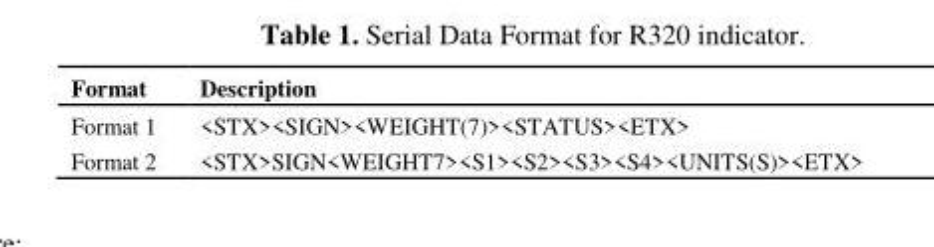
<table><thead><tr><td>Format</td><td>Description</td></tr></thead><tbody><tr><td>Format 1</td><td>&lt;STX&gt;&lt;SIGN&gt;&lt;WEIGHT(7)&gt;&lt;STATUS&gt;&lt;ETX&gt;</td></tr><tr><td>Format 2</td><td>&lt;STX&gt;SIGN&lt;WEIGHT7&gt;&lt;S1&gt;&lt;S2&gt;&lt;S3&gt;&lt;S4&gt;&lt;UNITS(S)&gt;&lt;ETX&gt;</td></tr></tbody></table>